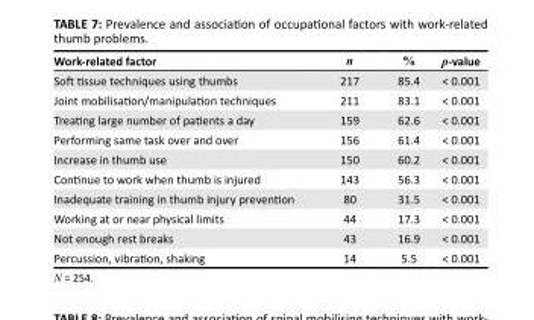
<table><thead><tr><td>Work-related factor</td><td>n</td><td>%</td><td>p-value</td></tr></thead><tbody><tr><td>Soft tissue techniques using thumbs</td><td>217</td><td>85.4</td><td>&lt; 0.001</td></tr><tr><td>Joint mobilisation/manipulation techniques</td><td>211</td><td>83.1</td><td>&lt; 0.001</td></tr><tr><td>Treating large number of patients a day</td><td>159</td><td>62.6</td><td>&lt; 0.001</td></tr><tr><td>Performing same task over and over</td><td>156</td><td>61.4</td><td>&lt; 0.001</td></tr><tr><td>Increase in thumb use</td><td>150</td><td>60.2</td><td>&lt; 0.001</td></tr><tr><td>Continue to work when thumb is injured</td><td>143</td><td>56.3</td><td>&lt; 0.001</td></tr><tr><td>Inadequate training in thumb injury prevention</td><td>80</td><td>31.5</td><td>&lt; 0.001</td></tr><tr><td>Working at or near physical limits</td><td>44</td><td>17.3</td><td>&lt; 0.001</td></tr><tr><td>Not enough rest breaks</td><td>43</td><td>16.9</td><td>&lt; 0.001</td></tr><tr><td>Percussion, vibration, shaking</td><td>14</td><td>5.5</td><td>&lt; 0.001</td></tr></tbody></table>